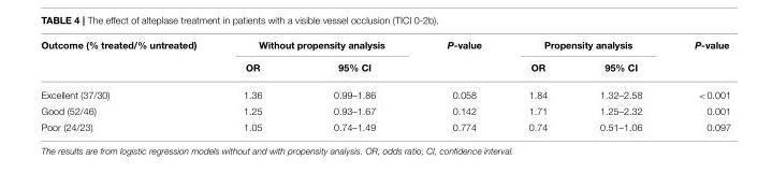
<table><thead><tr><td rowspan="2">Outcome (% treated/% untreated)</td><td colspan="2">Without propensity analysis</td><td rowspan="2">P-value</td><td colspan="2">Propensity analysis</td><td rowspan="2">P-value</td></tr><tr><td>OR</td><td>95% CI</td><td>OR</td><td>95% CI</td></tr></thead><tbody><tr><td>Excellent (37/30)</td><td>1.36</td><td>0.99–1.86</td><td>0.058</td><td>1.84</td><td>1.32–2.58</td><td>&lt;0.001</td></tr><tr><td>Good (52/46)</td><td>1.25</td><td>0.93–1.67</td><td>0.142</td><td>1.71</td><td>1.25–2.32</td><td>0.001</td></tr><tr><td>Poor (24/23)</td><td>1.05</td><td>0.74–1.49</td><td>0.774</td><td>0.74</td><td>0.51–1.06</td><td>0.097</td></tr></tbody></table>